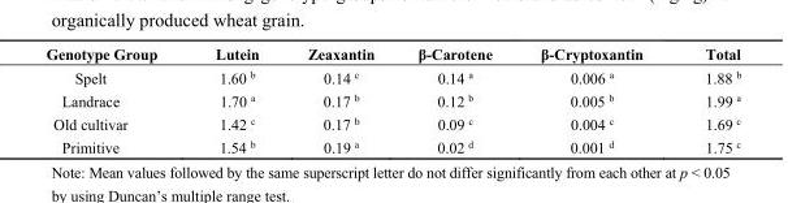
<table><thead><tr><td>Genotype Group</td><td>Lutein</td><td>Zeaxantin</td><td>β-Carotene</td><td>β-Cryptoxantin</td><td>Total</td></tr></thead><tbody><tr><td>Spelt</td><td>1.60 <sup>b</sup></td><td>0.14 <sup>c</sup></td><td>0.14 <sup>a</sup></td><td>0.006 <sup>a</sup></td><td>1.88 <sup>b</sup></td></tr><tr><td>Landrace</td><td>1.70 <sup>a</sup></td><td>0.17 <sup>b</sup></td><td>0.12 <sup>b</sup></td><td>0.005 <sup>b</sup></td><td>1.99 <sup>a</sup></td></tr><tr><td>Old cultivar</td><td>1.42 <sup>c</sup></td><td>0.17 <sup>b</sup></td><td>0.09 <sup>c</sup></td><td>0.004 <sup>c</sup></td><td>1.69 <sup>c</sup></td></tr><tr><td>Primitive</td><td>1.54 <sup>b</sup></td><td>0.19 <sup>a</sup></td><td>0.02 <sup>d</sup></td><td>0.001 <sup>d</sup></td><td>1.75 <sup>c</sup></td></tr></tbody></table>